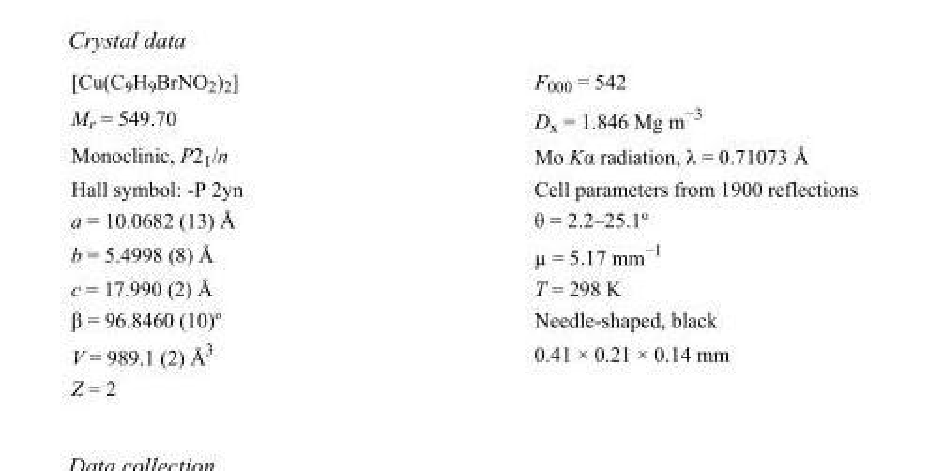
<table><tbody><tr><td>[Cu(C<sub>9</sub>H<sub>9</sub>BrNO<sub>2</sub>)<sub>2</sub>]</td><td>F000 = 542</td></tr><tr><td>M<sub>r</sub> = 549.70</td><td>D<sub>x</sub> = 1.846 Mg m<sup>−3</sup></td></tr><tr><td>Monoclinic, P2<sub>1</sub>/n</td><td>Mo Kα radiation, λ = 0.71073 Å</td></tr><tr><td>Hall symbol: -P 2yn</td><td>Cell parameters from 1900 reflections</td></tr><tr><td>a = 10.0682 (13) Å</td><td>θ = 2.2–25.1º</td></tr><tr><td>b = 5.4998 (8) Å</td><td>µ = 5.17 mm<sup>−1</sup></td></tr><tr><td>c = 17.990 (2) Å</td><td>T = 298 K</td></tr><tr><td>β = 96.8460 (10)º</td><td>Needle-shaped, black</td></tr><tr><td>V = 989.1 (2) Å<sup>3</sup></td><td>0.41 × 0.21 × 0.14 mm</td></tr><tr><td>Z = 2</td><td></td></tr></tbody></table>